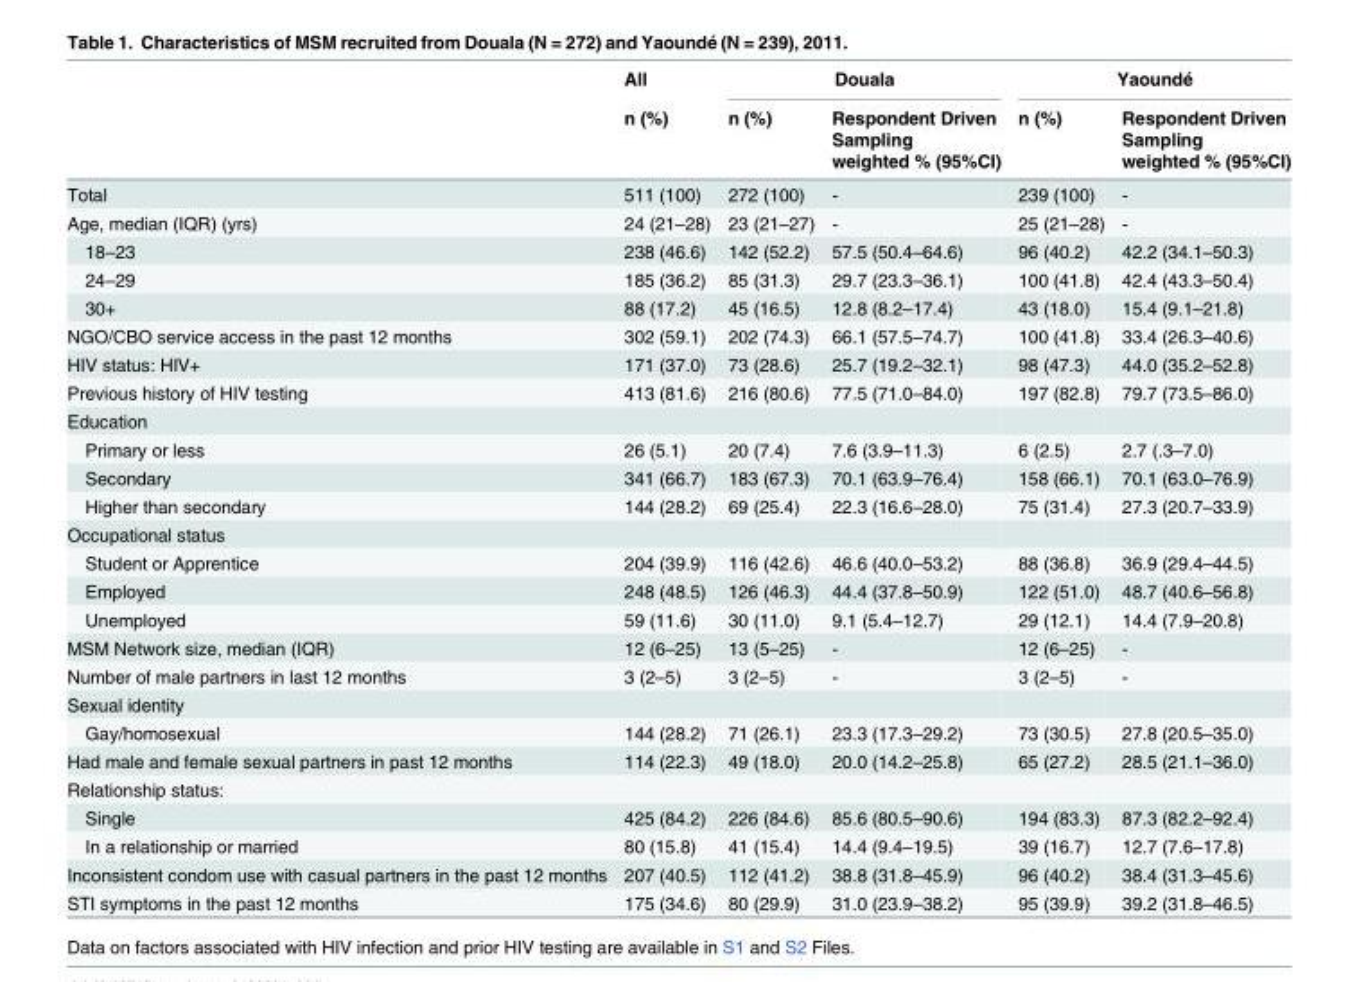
<table><thead><tr><td rowspan="2"></td><td rowspan="2">All n (%)</td><td colspan="2">Douala</td><td colspan="2">Yaoundé</td></tr><tr><td>n (%)</td><td>Respondent Driven Sampling weighted % (95%CI)</td><td>n (%)</td><td>Respondent Driven Sampling weighted % (95%CI)</td></tr></thead><tbody><tr><td>Total</td><td>511 (100)</td><td>272 (100)</td><td>-</td><td>239 (100)</td><td>-</td></tr><tr><td>Age, median (IQR) (yrs)</td><td>24 (21–28)</td><td>23 (21–27)</td><td>-</td><td>25 (21–28)</td><td>-</td></tr><tr><td>18–23</td><td>238 (46.6)</td><td>142 (52.2)</td><td>57.5 (50.4–64.6)</td><td>96 (40.2)</td><td>42.2 (34.1–50.3)</td></tr><tr><td>24–29</td><td>185 (36.2)</td><td>85 (31.3)</td><td>29.7 (23.3–36.1)</td><td>100 (41.8)</td><td>42.4 (43.3–50.4)</td></tr><tr><td>30+</td><td>88 (17.2)</td><td>45 (16.5)</td><td>12.8 (8.2–17.4)</td><td>43 (18.0)</td><td>15.4 (9.1–21.8)</td></tr><tr><td>NGO/CBO service access in the past 12 months</td><td>302 (59.1)</td><td>202 (74.3)</td><td>66.1 (57.5–74.7)</td><td>100 (41.8)</td><td>33.4 (26.3–40.6)</td></tr><tr><td>HIV status: HIV+</td><td>171 (37.0)</td><td>73 (28.6)</td><td>25.7 (19.2–32.1)</td><td>98 (47.3)</td><td>44.0 (35.2–52.8)</td></tr><tr><td>Previous history of HIV testing</td><td>413 (81.6)</td><td>216 (80.6)</td><td>77.5 (71.0–84.0)</td><td>197 (82.8)</td><td>79.7 (73.5–86.0)</td></tr><tr><td colspan="6">Education</td></tr><tr><td>Primary or less</td><td>26 (5.1)</td><td>20 (7.4)</td><td>7.6 (3.9–11.3)</td><td>6 (2.5)</td><td>2.7 (.3–7.0)</td></tr><tr><td>Secondary</td><td>341 (66.7)</td><td>183 (67.3)</td><td>70.1 (63.9–76.4)</td><td>158 (66.1)</td><td>70.1 (63.0–76.9)</td></tr><tr><td>Higher than secondary</td><td>144 (28.2)</td><td>69 (25.4)</td><td>22.3 (16.6–28.0)</td><td>75 (31.4)</td><td>27.3 (20.7–33.9)</td></tr><tr><td colspan="6">Occupational status</td></tr><tr><td>Student or Apprentice</td><td>204 (39.9)</td><td>116 (42.6)</td><td>46.6 (40.0–53.2)</td><td>88 (36.8)</td><td>36.9 (29.4–44.5)</td></tr><tr><td>Employed</td><td>248 (48.5)</td><td>126 (46.3)</td><td>44.4 (37.8–50.9)</td><td>122 (51.0)</td><td>48.7 (40.6–56.8)</td></tr><tr><td>Unemployed</td><td>59 (11.6)</td><td>30 (11.0)</td><td>9.1 (5.4–12.7)</td><td>29 (12.1)</td><td>14.4 (7.9–20.8)</td></tr><tr><td>MSM Network size, median (IQR)</td><td>12 (6–25)</td><td>13 (5–25)</td><td>-</td><td>12 (6–25)</td><td>-</td></tr><tr><td>Number of male partners in last 12 months</td><td>3 (2–5)</td><td>3 (2–5)</td><td>-</td><td>3 (2–5)</td><td>-</td></tr><tr><td colspan="6">Sexual identity</td></tr><tr><td>Gay/homosexual</td><td>144 (28.2)</td><td>71 (26.1)</td><td>23.3 (17.3–29.2)</td><td>73 (30.5)</td><td>27.8 (20.5–35.0)</td></tr><tr><td>Had male and female sexual partners in past 12 months</td><td>114 (22.3)</td><td>49 (18.0)</td><td>20.0 (14.2–25.8)</td><td>65 (27.2)</td><td>28.5 (21.1–36.0)</td></tr><tr><td colspan="6">Relationship status:</td></tr><tr><td>Single</td><td>425 (84.2)</td><td>226 (84.6)</td><td>85.6 (80.5–90.6)</td><td>194 (83.3)</td><td>87.3 (82.2–92.4)</td></tr><tr><td>In a relationship or married</td><td>80 (15.8)</td><td>41 (15.4)</td><td>14.4 (9.4–19.5)</td><td>39 (16.7)</td><td>12.7 (7.6–17.8)</td></tr><tr><td>Inconsistent condom use with casual partners in the past 12 months</td><td>207 (40.5)</td><td>112 (41.2)</td><td>38.8 (31.8–45.9)</td><td>96 (40.2)</td><td>38.4 (31.3–45.6)</td></tr><tr><td>STI symptoms in the past 12 months</td><td>175 (34.6)</td><td>80 (29.9)</td><td>31.0 (23.9–38.2)</td><td>95 (39.9)</td><td>39.2 (31.8–46.5)</td></tr></tbody></table>